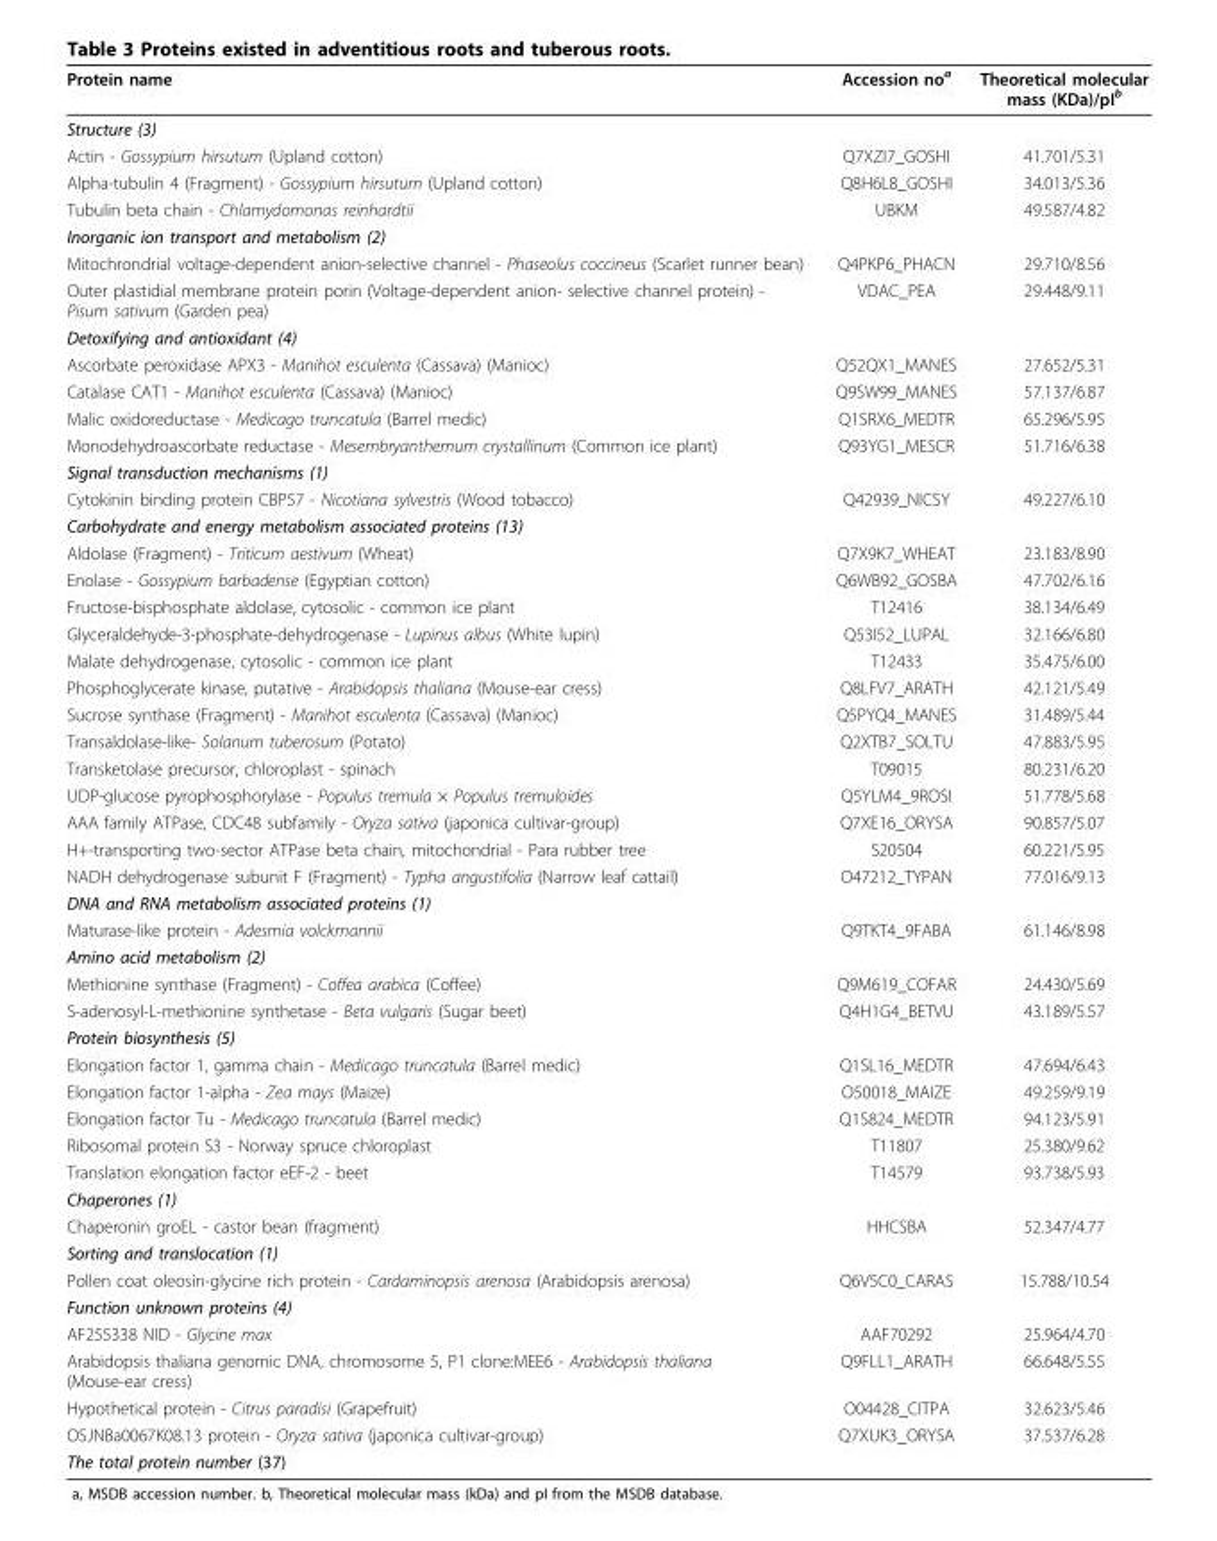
<table><thead><tr><td>Protein name</td><td>Accession no<sup>a</sup></td><td>Theoretical molecular mass (KDa)/pI<sup>b</sup></td></tr></thead><tbody><tr><td colspan="3">Structure (3)</td></tr><tr><td>Actin - Gossypium hirsutum (Upland cotton)</td><td>Q7XZI7_GOSHI</td><td>41.701/5.31</td></tr><tr><td>Alpha-tubulin 4 (Fragment) - Gossypium hirsutum (Upland cotton)</td><td>Q8H6L8_GOSHI</td><td>34.013/5.36</td></tr><tr><td>Tubulin beta chain - Chlamydomonas reinhardtii</td><td>UBKM</td><td>49.587/4.82</td></tr><tr><td colspan="3">Inorganic ion transport and metabolism (2)</td></tr><tr><td>Mitochrondrial voltage-dependent anion-selective channel - Phaseolus coccineus (Scarlet runner bean)</td><td>Q4PKP6_PHACN</td><td>29.710/8.56</td></tr><tr><td>Outer plastidial membrane protein porin (Voltage-dependent anion- selective channel protein) - Pisum sativum (Garden pea)</td><td>VDAC_PEA</td><td>29.448/9.11</td></tr><tr><td colspan="3">Detoxifying and antioxidant (4)</td></tr><tr><td>Ascorbate peroxidase APX3 - Manihot esculenta (Cassava) (Manioc)</td><td>Q52QX1_MANES</td><td>27.652/5.31</td></tr><tr><td>Catalase CAT1 - Manihot esculenta (Cassava) (Manioc)</td><td>Q9SW99_MANES</td><td>57.137/6.87</td></tr><tr><td>Malic oxidoreductase - Medicago truncatula (Barrel medic)</td><td>Q1SRX6_MEDTR</td><td>65.296/5.95</td></tr><tr><td>Monodehydroascorbate reductase - Mesembryanthemum crystallinum (Common ice plant)</td><td>Q93YG1_MESCR</td><td>51.716/6.38</td></tr><tr><td colspan="3">Signal transduction mechanisms (1)</td></tr><tr><td>Cytokinin binding protein CBP57 - Nicotiana sylvestris (Wood tobacco)</td><td>Q42939_NICSY</td><td>49.227/6.10</td></tr><tr><td colspan="3">Carbohydrate and energy metabolism associated proteins (13)</td></tr><tr><td>Aldolase (Fragment) - Triticum aestivum (Wheat)</td><td>Q7X9K7_WHEAT</td><td>23.183/8.90</td></tr><tr><td>Enolase - Gossypium barbadense (Egyptian cotton)</td><td>Q6WB92_GOSBA</td><td>47.702/6.16</td></tr><tr><td>Fructose-bisphosphate aldolase, cytosolic - common ice plant</td><td>T12416</td><td>38.134/6.49</td></tr><tr><td>Glyceraldehyde-3-phosphate-dehydrogenase - Lupinus albus (White lupin)</td><td>Q53I52_LUPAL</td><td>32.166/6.80</td></tr><tr><td>Malate dehydrogenase, cytosolic - common ice plant</td><td>T12433</td><td>35.475/6.00</td></tr><tr><td>Phosphoglycerate kinase, putative - Arabidopsis thaliana (Mouse-ear cress)</td><td>Q8LFV7_ARATH</td><td>42.121/5.49</td></tr><tr><td>Sucrose synthase (Fragment) - Manihot esculenta (Cassava) (Manioc)</td><td>Q5PYQ4_MANES</td><td>31.489/5.44</td></tr><tr><td>Transaldolase-like- Solanum tuberosum (Potato)</td><td>Q2XTB7_SOLTU</td><td>47.883/5.95</td></tr><tr><td>Transketolase precursor, chloroplast - spinach</td><td>T09015</td><td>80.231/6.20</td></tr><tr><td>UDP-glucose pyrophosphorylase - Populus tremula × Populus tremuloides</td><td>Q5YLM4_9ROSI</td><td>51.778/5.68</td></tr><tr><td>AAA family ATPase, CDC48 subfamily - Oryza sativa (japonica cultivar-group)</td><td>Q7XE16_ORYSA</td><td>90.857/5.07</td></tr><tr><td>H+-transporting two-sector ATPase beta chain, mitochondrial - Para rubber tree</td><td>S20504</td><td>60.221/5.95</td></tr><tr><td>NADH dehydrogenase subunit F (Fragment) - Typha angustifolia (Narrow leaf cattail)</td><td>O47212_TYPAN</td><td>77.016/9.13</td></tr><tr><td colspan="3">DNA and RNA metabolism associated proteins (1)</td></tr><tr><td>Maturase-like protein - Adesmia volckmannii</td><td>Q9TKT4_9FABA</td><td>61.146/8.98</td></tr><tr><td colspan="3">Amino acid metabolism (2)</td></tr><tr><td>Methionine synthase (Fragment) - Coffea arabica (Coffee)</td><td>Q9M619_COFAR</td><td>24.430/5.69</td></tr><tr><td>S-adenosyl-L-methionine synthetase - Beta vulgaris (Sugar beet)</td><td>Q4H1G4_BETVU</td><td>43.189/5.57</td></tr><tr><td colspan="3">Protein biosynthesis (5)</td></tr><tr><td>Elongation factor 1, gamma chain - Medicago truncatula (Barrel medic)</td><td>Q1SL16_MEDTR</td><td>47.694/6.43</td></tr><tr><td>Elongation factor 1-alpha - Zea mays (Maize)</td><td>O50018_MAIZE</td><td>49.259/9.19</td></tr><tr><td>Elongation factor Tu - Medicago truncatula (Barrel medic)</td><td>Q1S824_MEDTR</td><td>94.123/5.91</td></tr><tr><td>Ribosomal protein S3 - Norway spruce chloroplast</td><td>T11807</td><td>25.380/9.62</td></tr><tr><td>Translation elongation factor eEF-2 - beet</td><td>T14579</td><td>93.738/5.93</td></tr><tr><td colspan="3">Chaperones (1)</td></tr><tr><td>Chaperonin groEL - castor bean (fragment)</td><td>HHCSBA</td><td>52.347/4.77</td></tr><tr><td colspan="3">Sorting and translocation (1)</td></tr><tr><td>Pollen coat oleosin-glycine rich protein - Cardaminopsis arenosa (Arabidopsis arenosa)</td><td>Q6V5C0_CARAS</td><td>15.788/10.54</td></tr><tr><td colspan="3">Function unknown proteins (4)</td></tr><tr><td>AF255338 NID - Glycine max</td><td>AAF70292</td><td>25.964/4.70</td></tr><tr><td>Arabidopsis thaliana genomic DNA, chromosome 5, P1 clone:MEE6 - Arabidopsis thaliana (Mouse-ear cress)</td><td>Q9FLL1_ARATH</td><td>66.648/5.55</td></tr><tr><td>Hypothetical protein - Citrus paradisi (Grapefruit)</td><td>O04428_CITPA</td><td>32.623/5.46</td></tr><tr><td>OSJNBa0067K08.13 protein - Oryza sativa (japonica cultivar-group)</td><td>Q7XUK3_ORYSA</td><td>37.537/6.28</td></tr><tr><td>The total protein number (37)</td><td></td><td></td></tr></tbody></table>